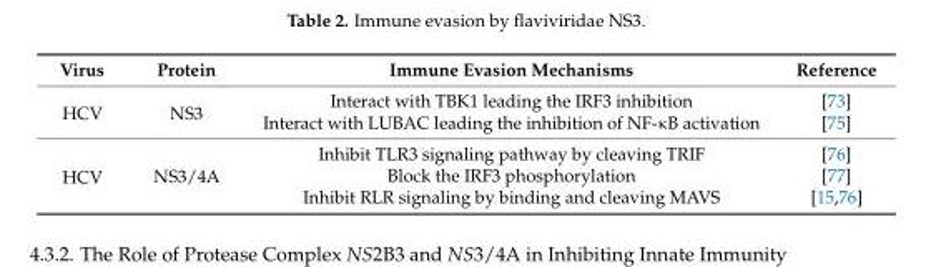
<table><thead><tr><td>Virus</td><td>Protein</td><td>Immune Evasion Mechanisms</td><td>Reference</td></tr></thead><tbody><tr><td rowspan="2">HCV</td><td rowspan="2">NS3</td><td>Interact with TBK1 leading the IRF3 inhibition</td><td>[73]</td></tr><tr><td>Interact with LUBAC leading the inhibition of NF-κB activation</td><td>[75]</td></tr><tr><td rowspan="3">HCV</td><td rowspan="3">NS3/4A</td><td>Inhibit TLR3 signaling pathway by cleaving TRIF</td><td>[76]</td></tr><tr><td>Block the IRF3 phosphorylation</td><td>[77]</td></tr><tr><td>Inhibit RLR signaling by binding and cleaving MAVS</td><td>[15,76]</td></tr></tbody></table>